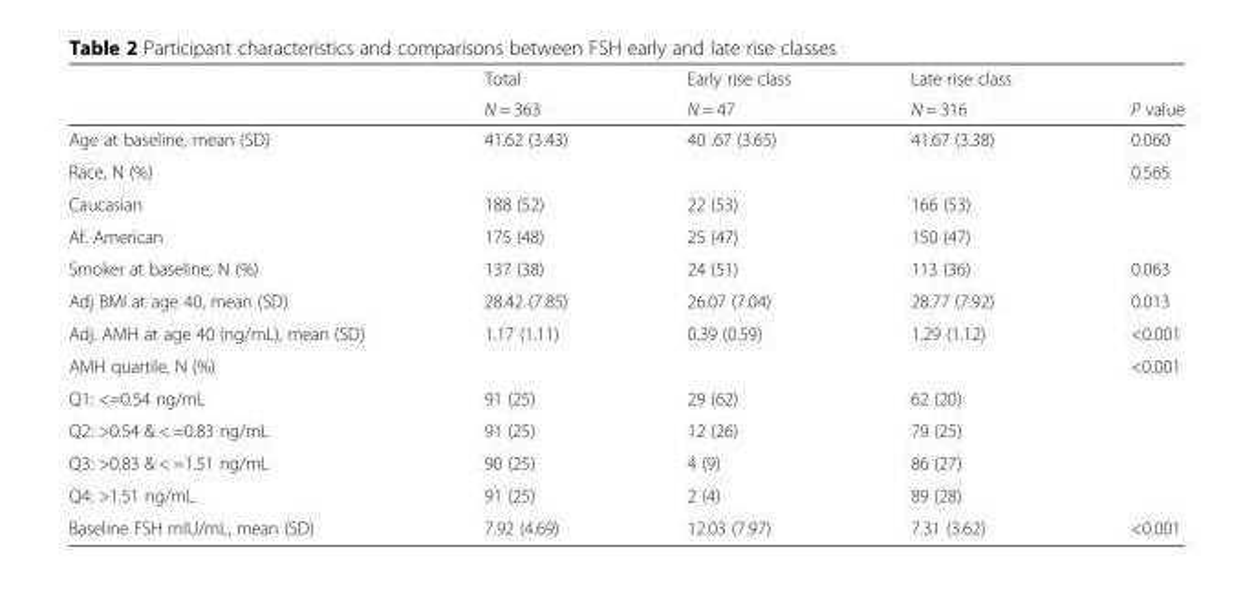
<table><thead><tr><td rowspan="2"></td><td rowspan="2">Total N = 363</td><td rowspan="2">Early rise class N = 47</td><td rowspan="2">Late rise class N = 316</td><td rowspan="2">P value</td></tr><tr></tr></thead><tbody><tr><td>Age at baseline, mean (SD)</td><td>41.62 (3.43)</td><td>40 .67 (3.65)</td><td>41.67 (3.38)</td><td>0.060</td></tr><tr><td>Race, N (%)</td><td></td><td></td><td></td><td>0.565</td></tr><tr><td>Caucasian</td><td>188 (52)</td><td>22 (53)</td><td>166 (53)</td><td></td></tr><tr><td>Af. American</td><td>175 (48)</td><td>25 (47)</td><td>150 (47)</td><td></td></tr><tr><td>Smoker at baseline, N (%)</td><td>137 (38)</td><td>24 (51)</td><td>113 (36)</td><td>0.063</td></tr><tr><td>Adj BMI at age 40, mean (SD)</td><td>28.42 (7.85)</td><td>26.07 (7.04)</td><td>28.77 (7.92)</td><td>0.013</td></tr><tr><td>Adj. AMH at age 40 (ng/mL), mean (SD)</td><td>1.17 (1.11)</td><td>0.39 (0.59)</td><td>1.29 (1.12)</td><td>&lt;0.001</td></tr><tr><td>AMH quartile, N (%)</td><td></td><td></td><td></td><td>&lt;0.001</td></tr><tr><td>Q1: &lt;=0.54 ng/mL</td><td>91 (25)</td><td>29 (62)</td><td>62 (20)</td><td></td></tr><tr><td>Q2: &gt;0.54 &amp; &lt; =0.83 ng/mL</td><td>91 (25)</td><td>12 (26)</td><td>79 (25)</td><td></td></tr><tr><td>Q3: &gt;0.83 &amp; &lt; =1.51 ng/mL</td><td>90 (25)</td><td>4 (9)</td><td>86 (27)</td><td></td></tr><tr><td>Q4: &gt;1.51 ng/mL</td><td>91 (25)</td><td>2 (4)</td><td>89 (28)</td><td></td></tr><tr><td>Baseline FSH mIU/mL, mean (SD)</td><td>7.92 (4.69)</td><td>12.03 (7.97)</td><td>7.31 (3.62)</td><td>&lt;0.001</td></tr></tbody></table>